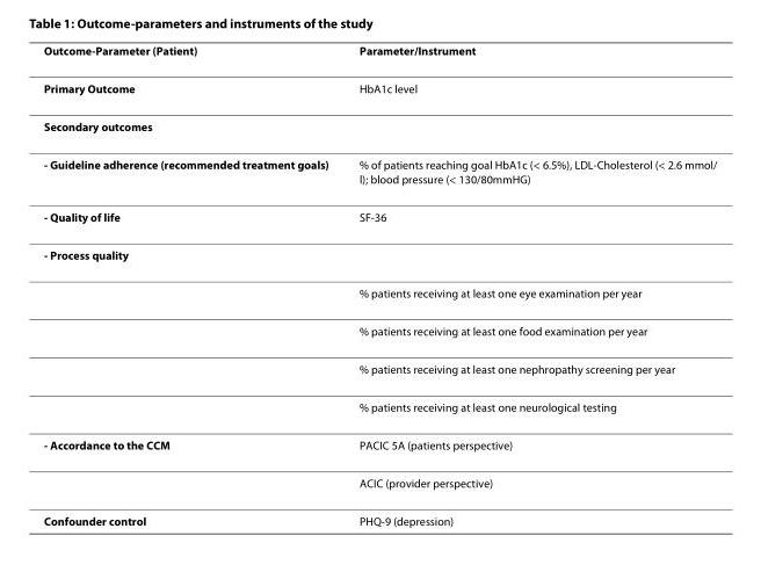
<table><thead><tr><td>Outcome-Parameter (Patient)</td><td>Parameter/Instrument</td></tr></thead><tbody><tr><td>Primary Outcome</td><td>HbA1c level</td></tr><tr><td colspan="2">Secondary outcomes</td></tr><tr><td>- Guideline adherence (recommended treatment goals)</td><td>% of patients reaching goal HbA1c (&lt; 6.5%), LDL-Cholesterol (&lt; 2.6 mmol/ l); blood pressure (&lt; 130/80mmHG)</td></tr><tr><td>- Quality of life</td><td>SF-36</td></tr><tr><td colspan="2">- Process quality</td></tr><tr><td></td><td>% patients receiving at least one eye examination per year</td></tr><tr><td></td><td>% patients receiving at least one food examination per year</td></tr><tr><td></td><td>% patients receiving at least one nephropathy screening per year</td></tr><tr><td></td><td>% patients receiving at least one neurological testing</td></tr><tr><td rowspan="2">- Accordance to the CCM</td><td>PACIC 5A (patients perspective)</td></tr><tr><td>ACIC (provider perspective)</td></tr><tr><td>Confounder control</td><td>PHQ-9 (depression)</td></tr></tbody></table>